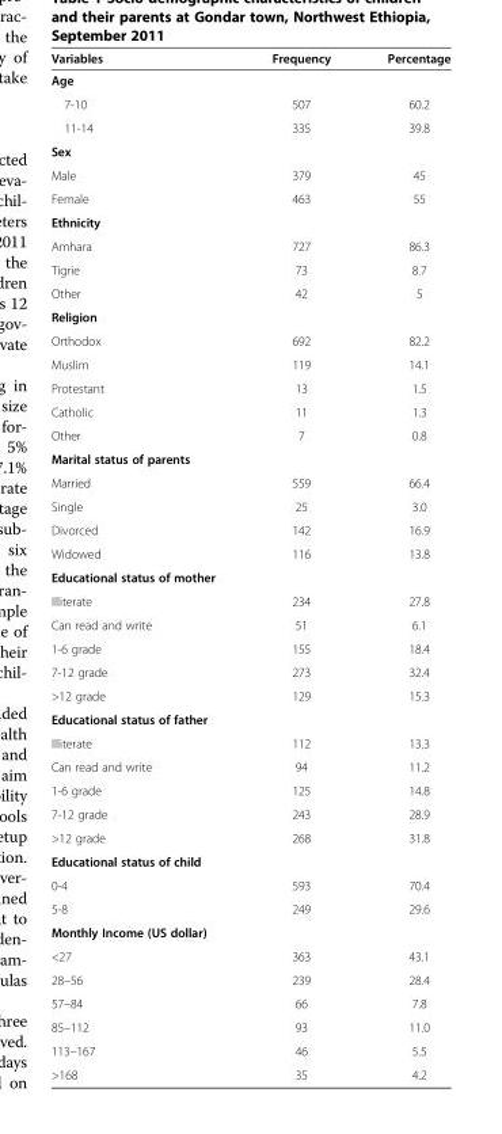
<table><thead><tr><td>Variables</td><td>Frequency</td><td>Percentage</td></tr></thead><tbody><tr><td colspan="3">Age</td></tr><tr><td>7-10</td><td>507</td><td>60.2</td></tr><tr><td>11-14</td><td>335</td><td>39.8</td></tr><tr><td colspan="3">Sex</td></tr><tr><td>Male</td><td>379</td><td>45</td></tr><tr><td>Female</td><td>463</td><td>55</td></tr><tr><td colspan="3">Ethnicity</td></tr><tr><td>Amhara</td><td>727</td><td>86.3</td></tr><tr><td>Tigrie</td><td>73</td><td>8.7</td></tr><tr><td>Other</td><td>42</td><td>5</td></tr><tr><td colspan="3">Religion</td></tr><tr><td>Orthodox</td><td>692</td><td>82.2</td></tr><tr><td>Muslim</td><td>119</td><td>14.1</td></tr><tr><td>Protestant</td><td>13</td><td>1.5</td></tr><tr><td>Catholic</td><td>11</td><td>1.3</td></tr><tr><td>Other</td><td>7</td><td>0.8</td></tr><tr><td colspan="3">Marital status of parents</td></tr><tr><td>Married</td><td>559</td><td>66.4</td></tr><tr><td>Single</td><td>25</td><td>3.0</td></tr><tr><td>Divorced</td><td>142</td><td>16.9</td></tr><tr><td>Widowed</td><td>116</td><td>13.8</td></tr><tr><td colspan="3">Educational status of mother</td></tr><tr><td>Illiterate</td><td>234</td><td>27.8</td></tr><tr><td>Can read and write</td><td>51</td><td>6.1</td></tr><tr><td>1-6 grade</td><td>155</td><td>18.4</td></tr><tr><td>7-12 grade</td><td>273</td><td>32.4</td></tr><tr><td>&gt;12 grade</td><td>129</td><td>15.3</td></tr><tr><td colspan="3">Educational status of father</td></tr><tr><td>Illiterate</td><td>112</td><td>13.3</td></tr><tr><td>Can read and write</td><td>94</td><td>11.2</td></tr><tr><td>1-6 grade</td><td>125</td><td>14.8</td></tr><tr><td>7-12 grade</td><td>243</td><td>28.9</td></tr><tr><td>&gt;12 grade</td><td>268</td><td>31.8</td></tr><tr><td colspan="3">Educational status of child</td></tr><tr><td>0-4</td><td>593</td><td>70.4</td></tr><tr><td>5-8</td><td>249</td><td>29.6</td></tr><tr><td colspan="3">Monthly Income (US dollar)</td></tr><tr><td>&lt;27</td><td>363</td><td>43.1</td></tr><tr><td>28–56</td><td>239</td><td>28.4</td></tr><tr><td>57–84</td><td>66</td><td>7.8</td></tr><tr><td>85–112</td><td>93</td><td>11.0</td></tr><tr><td>113–167</td><td>46</td><td>5.5</td></tr><tr><td>&gt;168</td><td>35</td><td>4.2</td></tr></tbody></table>